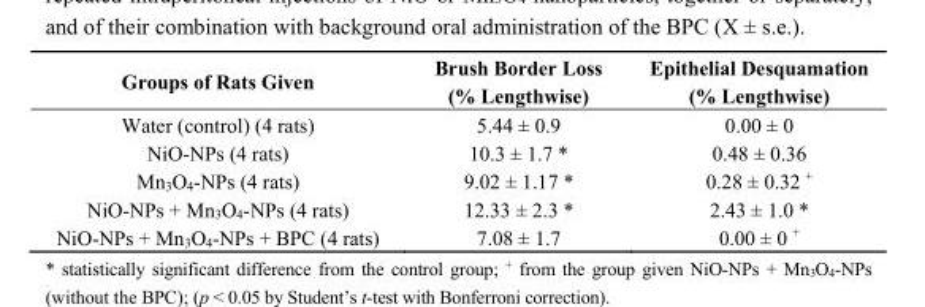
<table><thead><tr><td>Groups of Rats Given</td><td>Brush Border Loss (% Lengthwise)</td><td>Epithelial Desquamation (% Lengthwise)</td></tr></thead><tbody><tr><td>Water (control) (4 rats)</td><td>5.44 ± 0.9</td><td>0.00 ± 0</td></tr><tr><td>NiO-NPs (4 rats)</td><td>10.3 ± 1.7 *</td><td>0.48 ± 0.36</td></tr><tr><td>Mn<sub>3</sub>O<sub>4</sub>-NPs (4 rats)</td><td>9.02 ± 1.17 *</td><td>0.28 ± 0.32 <sup>+</sup></td></tr><tr><td>NiO-NPs + Mn<sub>3</sub>O<sub>4</sub>-NPs (4 rats)</td><td>12.33 ± 2.3 *</td><td>2.43 ± 1.0 *</td></tr><tr><td>NiO-NPs + Mn<sub>3</sub>O<sub>4</sub>-NPs + BPC (4 rats)</td><td>7.08 ± 1.7</td><td>0.00 ± 0 <sup>+</sup></td></tr></tbody></table>